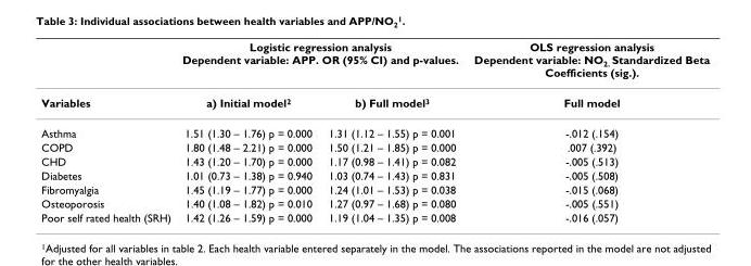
<table><thead><tr><td rowspan="2">Variables</td><td colspan="2">Logistic regression analysis Dependent variable: APP. OR (95% CI) and p-values.</td><td rowspan="2">OLS regression analysis Dependent variable: NO2. Standardized Beta Coefficients (sig.). Full model</td></tr><tr><td>a) Initial model2</td><td>b) Full model3</td></tr></thead><tbody><tr><td>Asthma</td><td>1.51 (1.30 – 1.76) p = 0.000</td><td>1.31 (1.12 – 1.55) p = 0.001</td><td>-.012 (.154)</td></tr><tr><td>COPD</td><td>1.80 (1.48 – 2.21) p = 0.000</td><td>1.50 (1.21 – 1.85) p = 0.000</td><td>.007 (.392)</td></tr><tr><td>CHD</td><td>1.43 (1.20 – 1.70) p = 0.000</td><td>1.17 (0.98 – 1.41) p = 0.082</td><td>-.005 (.513)</td></tr><tr><td>Diabetes</td><td>1.01 (0.73 – 1.38) p = 0.940</td><td>1.03 (0.74 – 1.43) p = 0.831</td><td>-.005 (.508)</td></tr><tr><td>Fibromyalgia</td><td>1.45 (1.19 – 1.77) p = 0.000</td><td>1.24 (1.01 – 1.53) p = 0.038</td><td>-.015 (.068)</td></tr><tr><td>Osteoporosis</td><td>1.40 (1.08 – 1.82) p = 0.010</td><td>1.27 (0.97 – 1.68) p = 0.080</td><td>-.005 (.551)</td></tr><tr><td>Poor self rated health (SRH)</td><td>1.42 (1.26 – 1.59) p = 0.000</td><td>1.19 (1.04 – 1.35) p = 0.008</td><td>-.016 (.057)</td></tr></tbody></table>